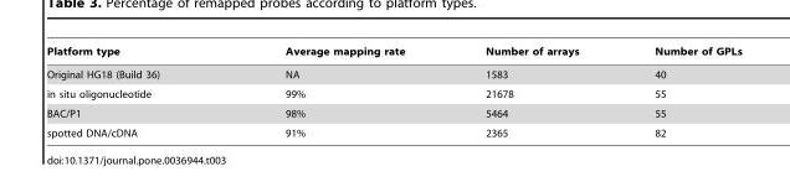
<table><thead><tr><td>Platform type</td><td>Average mapping rate</td><td>Number of arrays</td><td>Number of GPLs</td></tr></thead><tbody><tr><td>Original HG18 (Build 36)</td><td>NA</td><td>1583</td><td>40</td></tr><tr><td>in situ oligonucleotide</td><td>99%</td><td>21678</td><td>55</td></tr><tr><td>BAC/P1</td><td>98%</td><td>5464</td><td>55</td></tr><tr><td>spotted DNA/cDNA</td><td>91%</td><td>2365</td><td>82</td></tr></tbody></table>